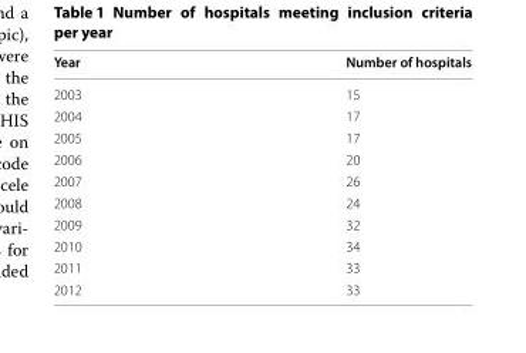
<table><thead><tr><td>Year</td><td>Number of hospitals</td></tr></thead><tbody><tr><td>2003</td><td>15</td></tr><tr><td>2004</td><td>17</td></tr><tr><td>2005</td><td>17</td></tr><tr><td>2006</td><td>20</td></tr><tr><td>2007</td><td>26</td></tr><tr><td>2008</td><td>24</td></tr><tr><td>2009</td><td>32</td></tr><tr><td>2010</td><td>34</td></tr><tr><td>2011</td><td>33</td></tr><tr><td>2012</td><td>33</td></tr></tbody></table>